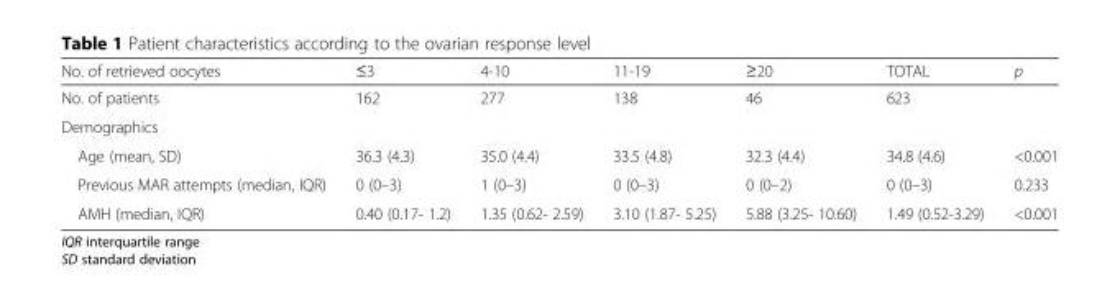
<table><thead><tr><td>No. of retrieved oocytes</td><td>≤3</td><td>4-10</td><td>11-19</td><td>≥20</td><td>TOTAL</td><td>p</td></tr></thead><tbody><tr><td>No. of patients</td><td>162</td><td>277</td><td>138</td><td>46</td><td>623</td><td></td></tr><tr><td colspan="7">Demographics</td></tr><tr><td>Age (mean, SD)</td><td>36.3 (4.3)</td><td>35.0 (4.4)</td><td>33.5 (4.8)</td><td>32.3 (4.4)</td><td>34.8 (4.6)</td><td>&lt;0.001</td></tr><tr><td>Previous MAR attempts (median, IQR)</td><td>0 (0–3)</td><td>1 (0–3)</td><td>0 (0–3)</td><td>0 (0–2)</td><td>0 (0–3)</td><td>0.233</td></tr><tr><td>AMH (median, IQR)</td><td>0.40 (0.17- 1.2)</td><td>1.35 (0.62- 2.59)</td><td>3.10 (1.87- 5.25)</td><td>5.88 (3.25- 10.60)</td><td>1.49 (0.52-3.29)</td><td>&lt;0.001</td></tr></tbody></table>